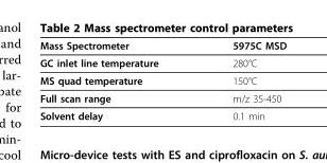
<table><thead><tr><td>Mass Spectrometer</td><td>5975C MSD</td></tr></thead><tbody><tr><td>GC inlet line temperature</td><td>280°C</td></tr><tr><td>MS quad temperature</td><td>150°C</td></tr><tr><td>Full scan range</td><td>m/z 35-450</td></tr><tr><td>Solvent delay</td><td>0.1 min</td></tr></tbody></table>